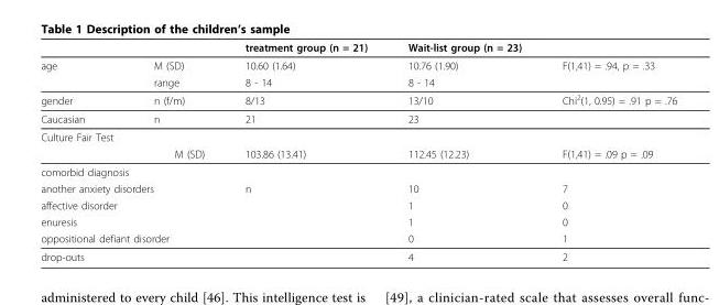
<table><thead><tr><td></td><td></td><td>treatment group (n = 21)</td><td>Wait-list group (n = 23)</td><td></td></tr></thead><tbody><tr><td rowspan="2">age</td><td>M (SD)</td><td>10.60 (1.64)</td><td>10.76 (1.90)</td><td>F(1,41) = .94, p = .33</td></tr><tr><td>range</td><td>8 - 14</td><td>8 - 14</td><td></td></tr><tr><td>gender</td><td>n (f/m)</td><td>8/13</td><td>13/10</td><td>Chi<sup>2</sup>(1, 0.95) = .91 p = .76</td></tr><tr><td>Caucasian</td><td>n</td><td>21</td><td>23</td><td></td></tr><tr><td colspan="5">Culture Fair Test</td></tr><tr><td></td><td>M (SD)</td><td>103.86 (13.41)</td><td>112.45 (12.23)</td><td>F(1,41) = .09 p = .09</td></tr><tr><td colspan="5">comorbid diagnosis</td></tr><tr><td colspan="2">another anxiety disorders</td><td>n</td><td>10</td><td>7</td></tr><tr><td colspan="2">affective disorder</td><td></td><td>1</td><td>0</td></tr><tr><td colspan="2">enuresis</td><td></td><td>1</td><td>0</td></tr><tr><td colspan="2">oppositional defiant disorder</td><td></td><td>0</td><td>1</td></tr><tr><td colspan="2">drop-outs</td><td></td><td>4</td><td>2</td></tr></tbody></table>